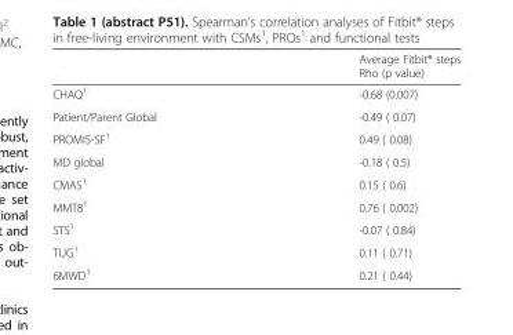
<table><thead><tr><td></td><td>Average Fitbit® steps Rho (p value)</td></tr></thead><tbody><tr><td>CHAQ<sup>1</sup></td><td>-0.68 (0.007)</td></tr><tr><td>Patient/Parent Global</td><td>-0.49 ( 0.07)</td></tr><tr><td>PROMIS-SF<sup>1</sup></td><td>0.49 ( 0.08)</td></tr><tr><td>MD global</td><td>-0.18 ( 0.5)</td></tr><tr><td>CMAS<sup>1</sup></td><td>0.15 ( 0.6)</td></tr><tr><td>MMT8<sup>1</sup></td><td>0.76 ( 0.002)</td></tr><tr><td>STS<sup>1</sup></td><td>-0.07 ( 0.84)</td></tr><tr><td>TUG<sup>1</sup></td><td>0.11 ( 0.71)</td></tr><tr><td>6MWD<sup>1</sup></td><td>0.21 ( 0.44)</td></tr></tbody></table>